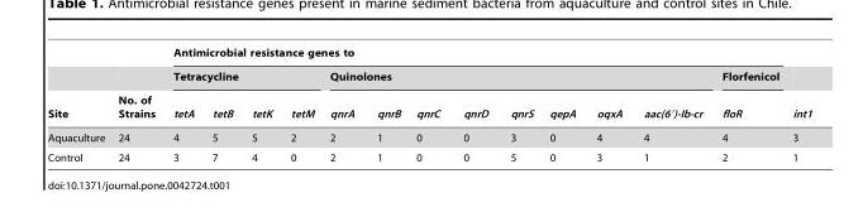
<table><thead><tr><td rowspan="3">Site</td><td rowspan="3">No. of Strains</td><td colspan="13">Antimicrobial resistance genes to</td><td rowspan="3">int1</td></tr><tr><td colspan="4">Tetracycline</td><td colspan="8">Quinolones</td><td rowspan="2">Florfenicol floR</td></tr><tr><td>tetA</td><td>tetB</td><td>tetK</td><td>tetM</td><td>qnrA</td><td>qnrB</td><td>qnrC</td><td>qnrD</td><td>qnrS</td><td>qepA</td><td>oqxA</td><td>aac(6′)-Ib-cr</td></tr></thead><tbody><tr><td>Aquaculture</td><td>24</td><td>4</td><td>5</td><td>5</td><td>2</td><td>2</td><td>1</td><td>0</td><td>0</td><td>3</td><td>0</td><td>4</td><td>4</td><td>4</td><td>3</td></tr><tr><td>Control</td><td>24</td><td>3</td><td>7</td><td>4</td><td>0</td><td>2</td><td>1</td><td>0</td><td>0</td><td>5</td><td>0</td><td>3</td><td>1</td><td>2</td><td>1</td></tr></tbody></table>